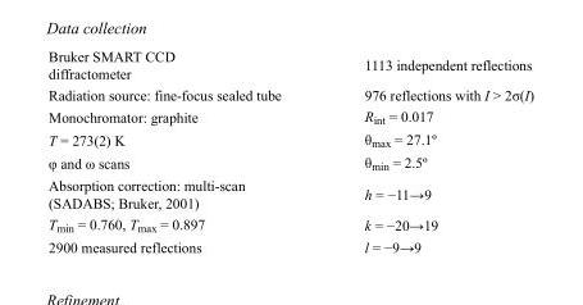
<table><tbody><tr><td>Bruker SMART CCD diffractometer</td><td>1113 independent reflections</td></tr><tr><td>Radiation source: fine-focus sealed tube</td><td>976 reflections with I &gt; 2σ(I)</td></tr><tr><td>Monochromator: graphite</td><td>R<sub>int</sub> = 0.017</td></tr><tr><td>T = 273(2) K</td><td>θ<sub>max</sub> = 27.1º</td></tr><tr><td>φ and ω scans</td><td>θ<sub>min</sub> = 2.5º</td></tr><tr><td>Absorption correction: multi-scan (SADABS; Bruker, 2001)</td><td>h = −11→9</td></tr><tr><td>T<sub>min</sub> = 0.760, T<sub>max</sub> = 0.897</td><td>k = −20→19</td></tr><tr><td>2900 measured reflections</td><td>l = −9→9</td></tr></tbody></table>